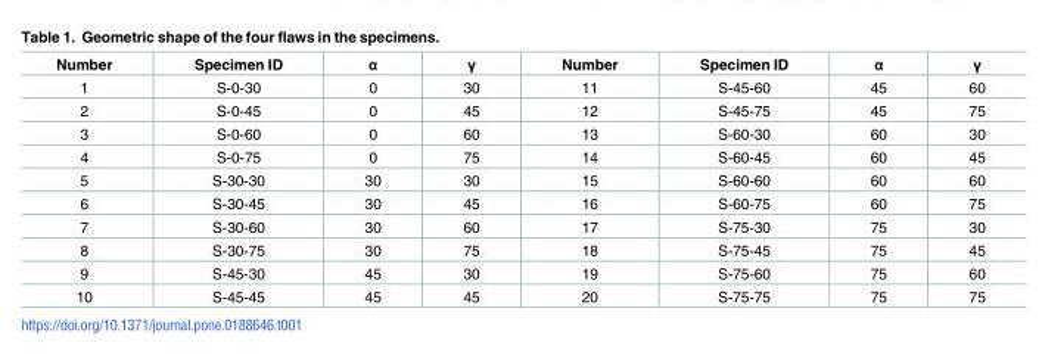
<table><thead><tr><td>Number</td><td>Specimen ID</td><td>α</td><td>γ</td><td>Number</td><td>Specimen ID</td><td>α</td><td>γ</td></tr></thead><tbody><tr><td>1</td><td>S-0-30</td><td>0</td><td>30</td><td>11</td><td>S-45-60</td><td>45</td><td>60</td></tr><tr><td>2</td><td>S-0-45</td><td>0</td><td>45</td><td>12</td><td>S-45-75</td><td>45</td><td>75</td></tr><tr><td>3</td><td>S-0-60</td><td>0</td><td>60</td><td>13</td><td>S-60-30</td><td>60</td><td>30</td></tr><tr><td>4</td><td>S-0-75</td><td>0</td><td>75</td><td>14</td><td>S-60-45</td><td>60</td><td>45</td></tr><tr><td>5</td><td>S-30-30</td><td>30</td><td>30</td><td>15</td><td>S-60-60</td><td>60</td><td>60</td></tr><tr><td>6</td><td>S-30-45</td><td>30</td><td>45</td><td>16</td><td>S-60-75</td><td>60</td><td>75</td></tr><tr><td>7</td><td>S-30-60</td><td>30</td><td>60</td><td>17</td><td>S-75-30</td><td>75</td><td>30</td></tr><tr><td>8</td><td>S-30-75</td><td>30</td><td>75</td><td>18</td><td>S-75-45</td><td>75</td><td>45</td></tr><tr><td>9</td><td>S-45-30</td><td>45</td><td>30</td><td>19</td><td>S-75-60</td><td>75</td><td>60</td></tr><tr><td>10</td><td>S-45-45</td><td>45</td><td>45</td><td>20</td><td>S-75-75</td><td>75</td><td>75</td></tr></tbody></table>